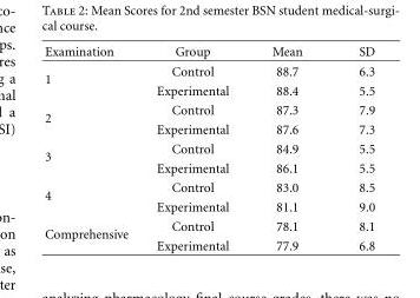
<table><thead><tr><td>Examination</td><td>Group</td><td>Mean</td><td>SD</td></tr></thead><tbody><tr><td rowspan="2">1</td><td>Control</td><td>88.7</td><td>6.3</td></tr><tr><td>Experimental</td><td>88.4</td><td>5.5</td></tr><tr><td rowspan="2">2</td><td>Control</td><td>87.3</td><td>7.9</td></tr><tr><td>Experimental</td><td>87.6</td><td>7.3</td></tr><tr><td rowspan="2">3</td><td>Control</td><td>84.9</td><td>5.5</td></tr><tr><td>Experimental</td><td>86.1</td><td>5.5</td></tr><tr><td rowspan="2">4</td><td>Control</td><td>83.0</td><td>8.5</td></tr><tr><td>Experimental</td><td>81.1</td><td>9.0</td></tr><tr><td rowspan="2">Comprehensive</td><td>Control</td><td>78.1</td><td>8.1</td></tr><tr><td>Experimental</td><td>77.9</td><td>6.8</td></tr></tbody></table>